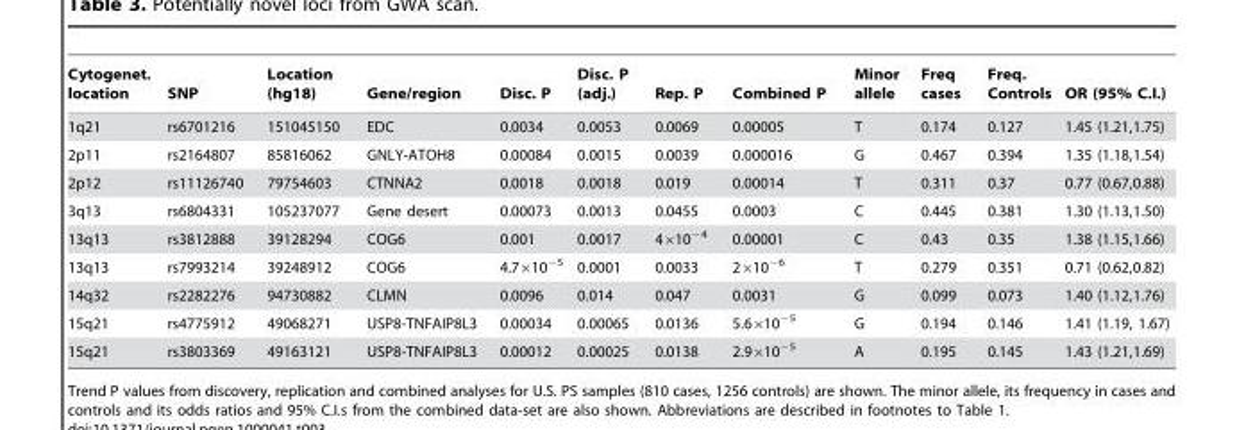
<table><thead><tr><td>Cytogenet. location</td><td>SNP</td><td>Location (hg18)</td><td>Gene/region</td><td>Disc. P</td><td>Disc. P (adj.)</td><td>Rep. P</td><td>Combined P</td><td>Minor allele</td><td>Freq cases</td><td>Freq. Controls</td><td>OR (95% C.I.)</td></tr></thead><tbody><tr><td>1q21</td><td>rs6701216</td><td>151045150</td><td>EDC</td><td>0.0034</td><td>0.0053</td><td>0.0069</td><td>0.00005</td><td>T</td><td>0.174</td><td>0.127</td><td>1.45 (1.21,1.75)</td></tr><tr><td>2p11</td><td>rs2164807</td><td>85816062</td><td>GNLY-ATOH8</td><td>0.00084</td><td>0.0015</td><td>0.0039</td><td>0.000016</td><td>G</td><td>0.467</td><td>0.394</td><td>1.35 (1.18,1.54)</td></tr><tr><td>2p12</td><td>rs11126740</td><td>79754603</td><td>CTNNA2</td><td>0.0018</td><td>0.0018</td><td>0.019</td><td>0.00014</td><td>T</td><td>0.311</td><td>0.37</td><td>0.77 (0.67,0.88)</td></tr><tr><td>3q13</td><td>rs6804331</td><td>105237077</td><td>Gene desert</td><td>0.00073</td><td>0.0013</td><td>0.0455</td><td>0.0003</td><td>C</td><td>0.445</td><td>0.381</td><td>1.30 (1.13,1.50)</td></tr><tr><td>13q13</td><td>rs3812888</td><td>39128294</td><td>COG6</td><td>0.001</td><td>0.0017</td><td>4×10<sup>−4</sup></td><td>0.00001</td><td>C</td><td>0.43</td><td>0.35</td><td>1.38 (1.15,1.66)</td></tr><tr><td>13q13</td><td>rs7993214</td><td>39248912</td><td>COG6</td><td>4.7×10<sup>−5</sup></td><td>0.0001</td><td>0.0033</td><td>2×10<sup>−6</sup></td><td>T</td><td>0.279</td><td>0.351</td><td>0.71 (0.62,0.82)</td></tr><tr><td>14q32</td><td>rs2282276</td><td>94730882</td><td>CLMN</td><td>0.0096</td><td>0.014</td><td>0.047</td><td>0.0031</td><td>G</td><td>0.099</td><td>0.073</td><td>1.40 (1.12,1.76)</td></tr><tr><td>15q21</td><td>rs4775912</td><td>49068271</td><td>USP8-TNFAIP8L3</td><td>0.00034</td><td>0.00065</td><td>0.0136</td><td>5.6×10<sup>−5</sup></td><td>G</td><td>0.194</td><td>0.146</td><td>1.41 (1.19, 1.67)</td></tr><tr><td>15q21</td><td>rs3803369</td><td>49163121</td><td>USP8-TNFAIP8L3</td><td>0.00012</td><td>0.00025</td><td>0.0138</td><td>2.9×10<sup>−5</sup></td><td>A</td><td>0.195</td><td>0.145</td><td>1.43 (1.21,1.69)</td></tr></tbody></table>